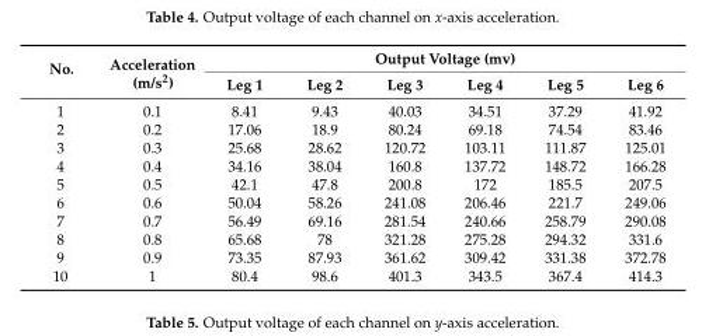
<table><thead><tr><td rowspan="2">No.</td><td rowspan="2">Acceleration (m/s<sup>2</sup>)</td><td colspan="6">Output Voltage (mv)</td></tr><tr><td>Leg 1</td><td>Leg 2</td><td>Leg 3</td><td>Leg 4</td><td>Leg 5</td><td>Leg 6</td></tr></thead><tbody><tr><td>1</td><td>0.1</td><td>8.41</td><td>9.43</td><td>40.03</td><td>34.51</td><td>37.29</td><td>41.92</td></tr><tr><td>2</td><td>0.2</td><td>17.06</td><td>18.9</td><td>80.24</td><td>69.18</td><td>74.54</td><td>83.46</td></tr><tr><td>3</td><td>0.3</td><td>25.68</td><td>28.62</td><td>120.72</td><td>103.11</td><td>111.87</td><td>125.01</td></tr><tr><td>4</td><td>0.4</td><td>34.16</td><td>38.04</td><td>160.8</td><td>137.72</td><td>148.72</td><td>166.28</td></tr><tr><td>5</td><td>0.5</td><td>42.1</td><td>47.8</td><td>200.8</td><td>172</td><td>185.5</td><td>207.5</td></tr><tr><td>6</td><td>0.6</td><td>50.04</td><td>58.26</td><td>241.08</td><td>206.46</td><td>221.7</td><td>249.06</td></tr><tr><td>7</td><td>0.7</td><td>56.49</td><td>69.16</td><td>281.54</td><td>240.66</td><td>258.79</td><td>290.08</td></tr><tr><td>8</td><td>0.8</td><td>65.68</td><td>78</td><td>321.28</td><td>275.28</td><td>294.32</td><td>331.6</td></tr><tr><td>9</td><td>0.9</td><td>73.35</td><td>87.93</td><td>361.62</td><td>309.42</td><td>331.38</td><td>372.78</td></tr><tr><td>10</td><td>1</td><td>80.4</td><td>98.6</td><td>401.3</td><td>343.5</td><td>367.4</td><td>414.3</td></tr></tbody></table>